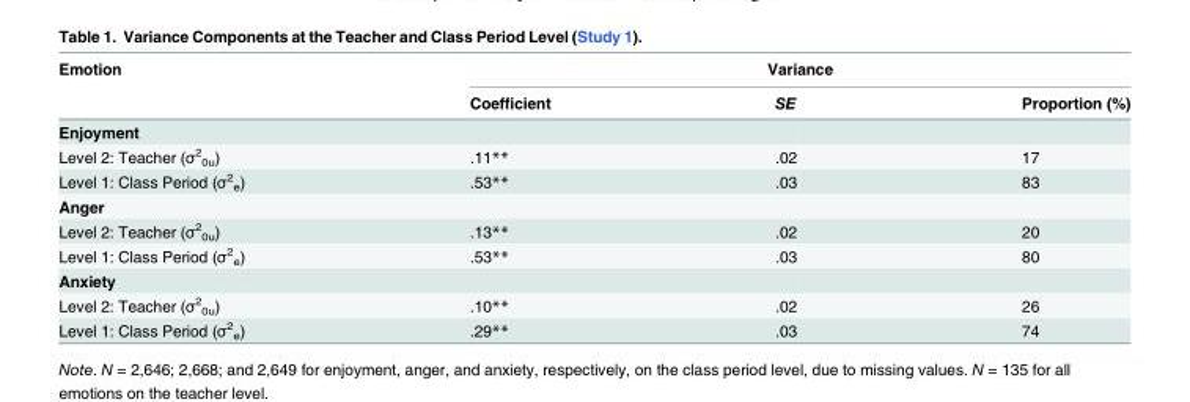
<table><thead><tr><td rowspan="2">Emotion</td><td colspan="3">Variance</td></tr><tr><td>Coefficient</td><td>SE</td><td>Proportion (%)</td></tr></thead><tbody><tr><td colspan="4">Enjoyment</td></tr><tr><td>Level 2: Teacher (σ<sup>2</sup> <sub>0u</sub>)</td><td>.11**</td><td>.02</td><td>17</td></tr><tr><td>Level 1: Class Period (σ<sup>2</sup> <sub>e</sub>)</td><td>.53**</td><td>.03</td><td>83</td></tr><tr><td colspan="4">Anger</td></tr><tr><td>Level 2: Teacher (σ<sup>2</sup> <sub>0u</sub>)</td><td>.13**</td><td>.02</td><td>20</td></tr><tr><td>Level 1: Class Period (σ<sup>2</sup> <sub>e</sub>)</td><td>.53**</td><td>.03</td><td>80</td></tr><tr><td colspan="4">Anxiety</td></tr><tr><td>Level 2: Teacher (σ<sup>2</sup> <sub>0u</sub>)</td><td>.10**</td><td>.02</td><td>26</td></tr><tr><td>Level 1: Class Period (σ<sup>2</sup> <sub>e</sub>)</td><td>.29**</td><td>.03</td><td>74</td></tr></tbody></table>